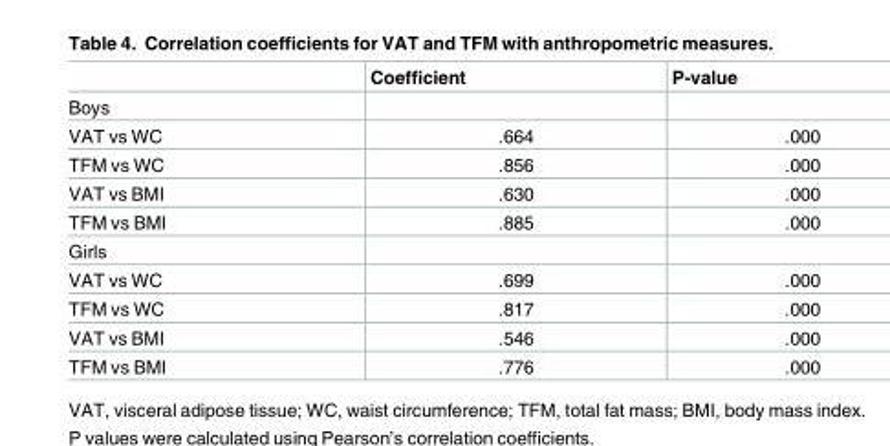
<table><thead><tr><td></td><td>Coefficient</td><td>P-value</td></tr></thead><tbody><tr><td colspan="3">Boys</td></tr><tr><td>VAT vs WC</td><td>.664</td><td>.000</td></tr><tr><td>TFM vs WC</td><td>.856</td><td>.000</td></tr><tr><td>VAT vs BMI</td><td>.630</td><td>.000</td></tr><tr><td>TFM vs BMI</td><td>.885</td><td>.000</td></tr><tr><td colspan="3">Girls</td></tr><tr><td>VAT vs WC</td><td>.699</td><td>.000</td></tr><tr><td>TFM vs WC</td><td>.817</td><td>.000</td></tr><tr><td>VAT vs BMI</td><td>.546</td><td>.000</td></tr><tr><td>TFM vs BMI</td><td>.776</td><td>.000</td></tr></tbody></table>